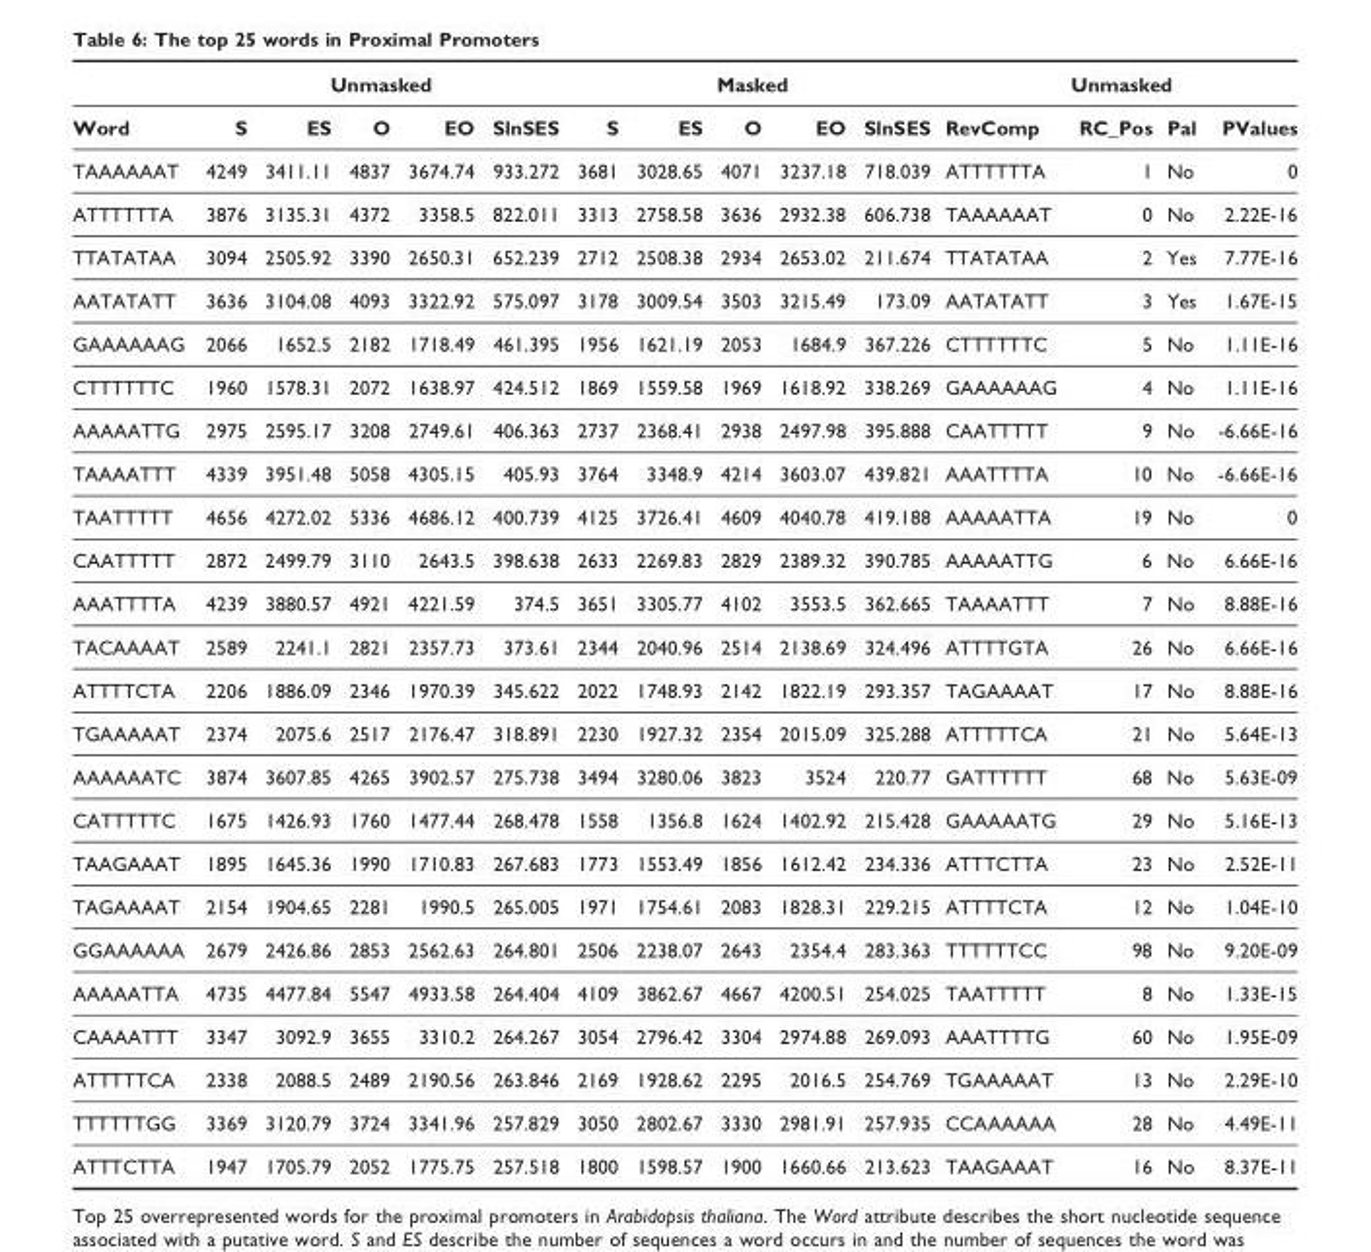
<table><thead><tr><td rowspan="2">Word</td><td colspan="5">Unmasked</td><td colspan="5">Masked</td><td colspan="4">Unmasked</td></tr><tr><td>S</td><td>ES</td><td>O</td><td>EO</td><td>SlnSES</td><td>S</td><td>ES</td><td>O</td><td>EO</td><td>SlnSES</td><td>RevComp</td><td>RC_Pos</td><td>Pal</td><td>PValues</td></tr></thead><tbody><tr><td>TAAAAAAT</td><td>4249</td><td>3411.11</td><td>4837</td><td>3674.74</td><td>933.272</td><td>3681</td><td>3028.65</td><td>4071</td><td>3237.18</td><td>718.039</td><td>ATTTTTTA</td><td>1</td><td>No</td><td>0</td></tr><tr><td>ATTTTTTA</td><td>3876</td><td>3135.31</td><td>4372</td><td>3358.5</td><td>822.011</td><td>3313</td><td>2758.58</td><td>3636</td><td>2932.38</td><td>606.738</td><td>TAAAAAAT</td><td>0</td><td>No</td><td>2.22E-16</td></tr><tr><td>TTATATAA</td><td>3094</td><td>2505.92</td><td>3390</td><td>2650.31</td><td>652.239</td><td>2712</td><td>2508.38</td><td>2934</td><td>2653.02</td><td>211.674</td><td>TTATATAA</td><td>2</td><td>Yes</td><td>7.77E-16</td></tr><tr><td>AATATATT</td><td>3636</td><td>3104.08</td><td>4093</td><td>3322.92</td><td>575.097</td><td>3178</td><td>3009.54</td><td>3503</td><td>3215.49</td><td>173.09</td><td>AATATATT</td><td>3</td><td>Yes</td><td>1.67E-15</td></tr><tr><td>GAAAAAAG</td><td>2066</td><td>1652.5</td><td>2182</td><td>1718.49</td><td>461.395</td><td>1956</td><td>1621.19</td><td>2053</td><td>1684.9</td><td>367.226</td><td>CTTTTTTC</td><td>5</td><td>No</td><td>1.11E-16</td></tr><tr><td>CTTTTTTC</td><td>1960</td><td>1578.31</td><td>2072</td><td>1638.97</td><td>424.512</td><td>1869</td><td>1559.58</td><td>1969</td><td>1618.92</td><td>338.269</td><td>GAAAAAAG</td><td>4</td><td>No</td><td>1.11E-16</td></tr><tr><td>AAAAATTG</td><td>2975</td><td>2595.17</td><td>3208</td><td>2749.61</td><td>406.363</td><td>2737</td><td>2368.41</td><td>2938</td><td>2497.98</td><td>395.888</td><td>CAATTTTT</td><td>9</td><td>No</td><td>-6.66E-16</td></tr><tr><td>TAAAATTT</td><td>4339</td><td>3951.48</td><td>5058</td><td>4305.15</td><td>405.93</td><td>3764</td><td>3348.9</td><td>4214</td><td>3603.07</td><td>439.821</td><td>AAATTTTA</td><td>10</td><td>No</td><td>-6.66E-16</td></tr><tr><td>TAATTTTT</td><td>4656</td><td>4272.02</td><td>5336</td><td>4686.12</td><td>400.739</td><td>4125</td><td>3726.41</td><td>4609</td><td>4040.78</td><td>419.188</td><td>AAAAATTA</td><td>19</td><td>No</td><td>0</td></tr><tr><td>CAATTTTT</td><td>2872</td><td>2499.79</td><td>3110</td><td>2643.5</td><td>398.638</td><td>2633</td><td>2269.83</td><td>2829</td><td>2389.32</td><td>390.785</td><td>AAAAATTG</td><td>6</td><td>No</td><td>6.66E-16</td></tr><tr><td>AAATTTTA</td><td>4239</td><td>3880.57</td><td>4921</td><td>4221.59</td><td>374.5</td><td>3651</td><td>3305.77</td><td>4102</td><td>3553.5</td><td>362.665</td><td>TAAAATTT</td><td>7</td><td>No</td><td>8.88E-16</td></tr><tr><td>TACAAAAT</td><td>2589</td><td>2241.1</td><td>2821</td><td>2357.73</td><td>373.61</td><td>2344</td><td>2040.96</td><td>2514</td><td>2138.69</td><td>324.496</td><td>ATTTTGTA</td><td>26</td><td>No</td><td>6.66E-16</td></tr><tr><td>ATTTTCTA</td><td>2206</td><td>1886.09</td><td>2346</td><td>1970.39</td><td>345.622</td><td>2022</td><td>1748.93</td><td>2142</td><td>1822.19</td><td>293.357</td><td>TAGAAAAT</td><td>17</td><td>No</td><td>8.88E-16</td></tr><tr><td>TGAAAAAT</td><td>2374</td><td>2075.6</td><td>2517</td><td>2176.47</td><td>318.891</td><td>2230</td><td>1927.32</td><td>2354</td><td>2015.09</td><td>325.288</td><td>ATTTTTCA</td><td>21</td><td>No</td><td>5.64E-13</td></tr><tr><td>AAAAAATC</td><td>3874</td><td>3607.85</td><td>4265</td><td>3902.57</td><td>275.738</td><td>3494</td><td>3280.06</td><td>3823</td><td>3524</td><td>220.77</td><td>GATTTTTT</td><td>68</td><td>No</td><td>5.63E-09</td></tr><tr><td>CATTTTTC</td><td>1675</td><td>1426.93</td><td>1760</td><td>1477.44</td><td>268.478</td><td>1558</td><td>1356.8</td><td>1624</td><td>1402.92</td><td>215.428</td><td>GAAAAATG</td><td>29</td><td>No</td><td>5.16E-13</td></tr><tr><td>TAAGAAAT</td><td>1895</td><td>1645.36</td><td>1990</td><td>1710.83</td><td>267.683</td><td>1773</td><td>1553.49</td><td>1856</td><td>1612.42</td><td>234.336</td><td>ATTTCTTA</td><td>23</td><td>No</td><td>2.52E-11</td></tr><tr><td>TAGAAAAT</td><td>2154</td><td>1904.65</td><td>2281</td><td>1990.5</td><td>265.005</td><td>1971</td><td>1754.61</td><td>2083</td><td>1828.31</td><td>229.215</td><td>ATTTTCTA</td><td>12</td><td>No</td><td>1.04E-10</td></tr><tr><td>GGAAAAAA</td><td>2679</td><td>2426.86</td><td>2853</td><td>2562.63</td><td>264.801</td><td>2506</td><td>2238.07</td><td>2643</td><td>2354.4</td><td>283.363</td><td>TTTTTTCC</td><td>98</td><td>No</td><td>9.20E-09</td></tr><tr><td>AAAAATTA</td><td>4735</td><td>4477.84</td><td>5547</td><td>4933.58</td><td>264.404</td><td>4109</td><td>3862.67</td><td>4667</td><td>4200.51</td><td>254.025</td><td>TAATTTTT</td><td>8</td><td>No</td><td>1.33E-15</td></tr><tr><td>CAAAATTT</td><td>3347</td><td>3092.9</td><td>3655</td><td>3310.2</td><td>264.267</td><td>3054</td><td>2796.42</td><td>3304</td><td>2974.88</td><td>269.093</td><td>AAATTTTG</td><td>60</td><td>No</td><td>1.95E-09</td></tr><tr><td>ATTTTTCA</td><td>2338</td><td>2088.5</td><td>2489</td><td>2190.56</td><td>263.846</td><td>2169</td><td>1928.62</td><td>2295</td><td>2016.5</td><td>254.769</td><td>TGAAAAAT</td><td>13</td><td>No</td><td>2.29E-10</td></tr><tr><td>TTTTTTGG</td><td>3369</td><td>3120.79</td><td>3724</td><td>3341.96</td><td>257.829</td><td>3050</td><td>2802.67</td><td>3330</td><td>2981.91</td><td>257.935</td><td>CCAAAAAA</td><td>28</td><td>No</td><td>4.49E-11</td></tr><tr><td>ATTTCTTA</td><td>1947</td><td>1705.79</td><td>2052</td><td>1775.75</td><td>257.518</td><td>1800</td><td>1598.57</td><td>1900</td><td>1660.66</td><td>213.623</td><td>TAAGAAAT</td><td>16</td><td>No</td><td>8.37E-11</td></tr></tbody></table>